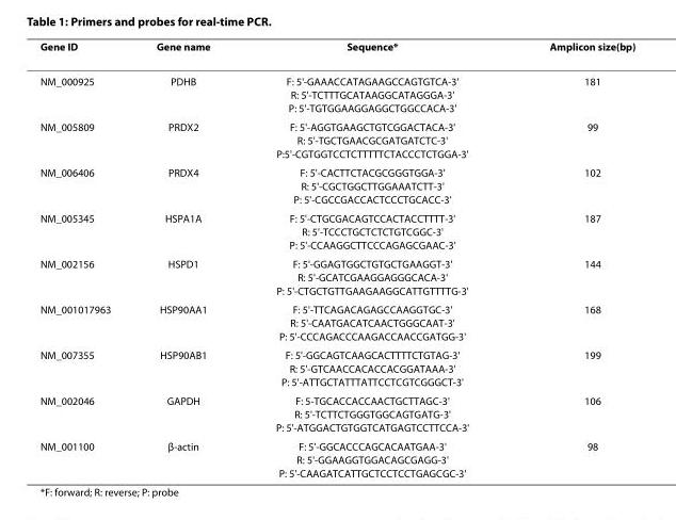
<table><thead><tr><td>Gene ID</td><td>Gene name</td><td>Sequence*</td><td>Amplicon size(bp)</td></tr></thead><tbody><tr><td>NM_000925</td><td>PDHB</td><td>F: 5&#x27;-GAAACCATAGAAGCCAGTGTCA-3&#x27; R: 5&#x27;-TCTTTGCATAAGGCATAGGGA-3&#x27; P: 5&#x27;-TGTGGAAGGAGGCTGGCCACA-3&#x27;</td><td>181</td></tr><tr><td>NM_005809</td><td>PRDX2</td><td>F: 5&#x27;-AGGTGAAGCTGTCGGACTACA-3&#x27; R: 5&#x27;-TGCTGAACGCGATGATCTC-3&#x27; P:5&#x27;-CGTGGTCCTCTTTTTCTACCCTCTGGA-3&#x27;</td><td>99</td></tr><tr><td>NM_006406</td><td>PRDX4</td><td>F: 5&#x27;-CACTTCTACGCGGGTGGA-3&#x27; R: 5&#x27;-CGCTGGCTTGGAAATCTT-3&#x27; P: 5&#x27;-CGCCGACCACTCCCTGCACC-3&#x27;</td><td>102</td></tr><tr><td>NM_005345</td><td>HSPA1A</td><td>F: 5&#x27;-CTGCGACAGTCCACTACCTTTT-3&#x27; R: 5&#x27;-TCCCTGCTCTCTGTCGGC-3&#x27; P: 5&#x27;-CCAAGGCTTCCCAGAGCGAAC-3&#x27;</td><td>187</td></tr><tr><td>NM_002156</td><td>HSPD1</td><td>F: 5&#x27;-GGAGTGGCTGTGCTGAAGGT-3&#x27; R: 5&#x27;-GCATCGAAGGAGGGCACA-3&#x27; P: 5&#x27;-CTGCTGTTGAAGAAGGCATTGTTTTG-3&#x27;</td><td>144</td></tr><tr><td>NM_001017963</td><td>HSP90AA1</td><td>F: 5&#x27;-TTCAGACAGAGCCAAGGTGC-3&#x27; R: 5&#x27;-CAATGACATCAACTGGGCAAT-3&#x27; P: 5&#x27;-CCCAGACCCAAGACCAACCGATGG-3&#x27;</td><td>168</td></tr><tr><td>NM_007355</td><td>HSP90AB1</td><td>F: 5&#x27;-GGCAGTCAAGCACTTTTCTGTAG-3&#x27; R: 5&#x27;-GTCAACCACACCACGGATAAA-3&#x27; P: 5&#x27;-ATTGCTATTTATTCCTCGTCGGGCT-3&#x27;</td><td>199</td></tr><tr><td>NM_002046</td><td>GAPDH</td><td>F: 5-TGCACCACCAACTGCTTAGC-3&#x27; R: 5&#x27;-TCTTCTGGGTGGCAGTGATG-3&#x27; P: 5&#x27;-ATGGACTGTGGTCATGAGTCCTTCCA-3&#x27;</td><td>106</td></tr><tr><td>NM_001100</td><td>β-actin</td><td>F: 5&#x27;-GGCACCCAGCACAATGAA-3&#x27; R: 5&#x27;-GGAAGGTGGACAGCGAGG-3&#x27; P: 5&#x27;-CAAGATCATTGCTCCTCCTGAGCGC-3&#x27;</td><td>98</td></tr></tbody></table>